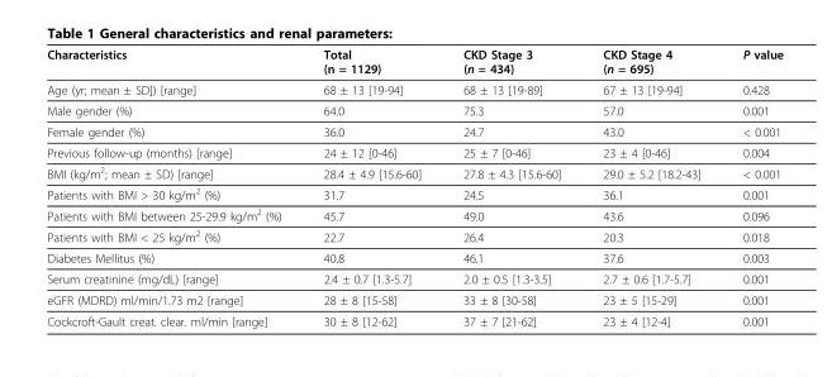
<table><thead><tr><td>Characteristics</td><td>Total (n = 1129)</td><td>CKD Stage 3 (n = 434)</td><td>CKD Stage 4 (n = 695)</td><td>P value</td></tr></thead><tbody><tr><td>Age (yr; mean ± SD]) [range]</td><td>68 ± 13 [19-94]</td><td>68 ± 13 [19-89]</td><td>67 ± 13 [19-94]</td><td>0.428</td></tr><tr><td>Male gender (%)</td><td>64.0</td><td>75.3</td><td>57.0</td><td>0.001</td></tr><tr><td>Female gender (%)</td><td>36.0</td><td>24.7</td><td>43.0</td><td>&lt; 0.001</td></tr><tr><td>Previous follow-up (months) [range]</td><td>24 ± 12 [0-46]</td><td>25 ± 7 [0-46]</td><td>23 ± 4 [0-46]</td><td>0.004</td></tr><tr><td>BMI (kg/m<sup>2</sup>; mean ± SD) [range]</td><td>28.4 ± 4.9 [15.6-60]</td><td>27.8 ± 4.3 [15.6-60]</td><td>29.0 ± 5.2 [18.2-43]</td><td>&lt; 0.001</td></tr><tr><td>Patients with BMI &gt; 30 kg/m<sup>2</sup> (%)</td><td>31.7</td><td>24.5</td><td>36.1</td><td>0.001</td></tr><tr><td>Patients with BMI between 25-29.9 kg/m<sup>2</sup> (%)</td><td>45.7</td><td>49.0</td><td>43.6</td><td>0.096</td></tr><tr><td>Patients with BMI &lt; 25 kg/m<sup>2</sup> (%)</td><td>22.7</td><td>26.4</td><td>20.3</td><td>0.018</td></tr><tr><td>Diabetes Mellitus (%)</td><td>40.8</td><td>46.1</td><td>37.6</td><td>0.003</td></tr><tr><td>Serum creatinine (mg/dL) [range]</td><td>2.4 ± 0.7 [1.3-5.7]</td><td>2.0 ± 0.5 [1.3-3.5]</td><td>2.7 ± 0.6 [1.7-5.7]</td><td>0.001</td></tr><tr><td>eGFR (MDRD) ml/min/1.73 m2 [range]</td><td>28 ± 8 [15-58]</td><td>33 ± 8 [30-58]</td><td>23 ± 5 [15-29]</td><td>0.001</td></tr><tr><td>Cockcroft-Gault creat. clear. ml/min [range]</td><td>30 ± 8 [12-62]</td><td>37 ± 7 [21-62]</td><td>23 ± 4 [12-4]</td><td>0.001</td></tr></tbody></table>